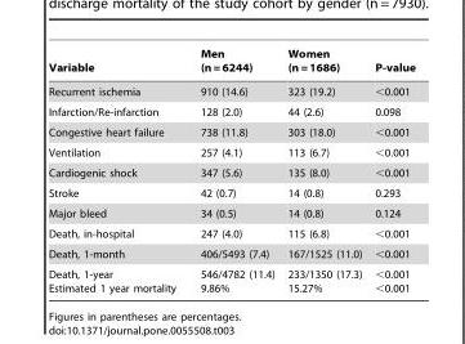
<table><thead><tr><td>Variable</td><td>Men (n = 6244)</td><td>Women (n = 1686)</td><td>P-value</td></tr></thead><tbody><tr><td>Recurrent ischemia</td><td>910 (14.6)</td><td>323 (19.2)</td><td>&lt;0.001</td></tr><tr><td>Infarction/Re-infarction</td><td>128 (2.0)</td><td>44 (2.6)</td><td>0.098</td></tr><tr><td>Congestive heart failure</td><td>738 (11.8)</td><td>303 (18.0)</td><td>&lt;0.001</td></tr><tr><td>Ventilation</td><td>257 (4.1)</td><td>113 (6.7)</td><td>&lt;0.001</td></tr><tr><td>Cardiogenic shock</td><td>347 (5.6)</td><td>135 (8.0)</td><td>&lt;0.001</td></tr><tr><td>Stroke</td><td>42 (0.7)</td><td>14 (0.8)</td><td>0.293</td></tr><tr><td>Major bleed</td><td>34 (0.5)</td><td>14 (0.8)</td><td>0.124</td></tr><tr><td>Death, in-hospital</td><td>247 (4.0)</td><td>115 (6.8)</td><td>&lt;0.001</td></tr><tr><td>Death, 1-month</td><td>406/5493 (7.4)</td><td>167/1525 (11.0)</td><td>&lt;0.001</td></tr><tr><td>Death, 1-year Estimated 1 year mortality</td><td>546/4782 (11.4) 9.86%</td><td>233/1350 (17.3) 15.27%</td><td>&lt;0.001 &lt;0.001</td></tr></tbody></table>